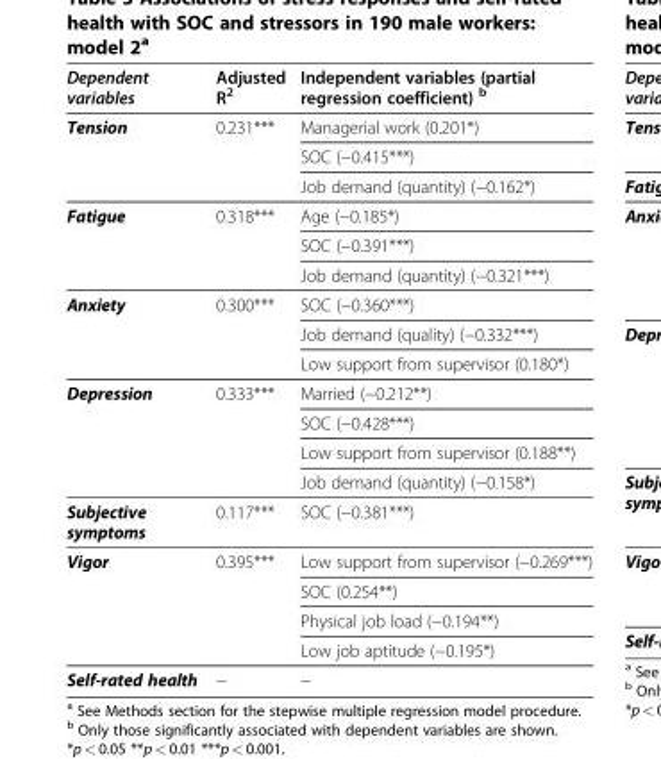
<table><thead><tr><td>Dependent variables</td><td>Adjusted R<sup>2</sup></td><td>Independent variables (partial regression coefficient) <sup>b</sup></td></tr></thead><tbody><tr><td rowspan="3">Tension</td><td rowspan="3">0.231***</td><td>Managerial work (0.201*)</td></tr><tr><td>SOC (−0.415***)</td></tr><tr><td>Job demand (quantity) (−0.162*)</td></tr><tr><td rowspan="3">Fatigue</td><td rowspan="3">0.318***</td><td>Age (−0.185*)</td></tr><tr><td>SOC (−0.391***)</td></tr><tr><td>Job demand (quantity) (−0.321***)</td></tr><tr><td rowspan="3">Anxiety</td><td rowspan="3">0.300***</td><td>SOC (−0.360***)</td></tr><tr><td>Job demand (quality) (−0.332***)</td></tr><tr><td>Low support from supervisor (0.180*)</td></tr><tr><td rowspan="4">Depression</td><td rowspan="4">0.333***</td><td>Married (−0.212**)</td></tr><tr><td>SOC (−0.428***)</td></tr><tr><td>Low support from supervisor (0.188**)</td></tr><tr><td>Job demand (quantity) (−0.158*)</td></tr><tr><td>Subjective symptoms</td><td>0.117***</td><td>SOC (−0.381***)</td></tr><tr><td rowspan="4">Vigor</td><td rowspan="4">0.395***</td><td>Low support from supervisor (−0.269***)</td></tr><tr><td>SOC (0.254**)</td></tr><tr><td>Physical job load (−0.194**)</td></tr><tr><td>Low job aptitude (−0.195*)</td></tr><tr><td>Self-rated health</td><td>−</td><td>−</td></tr></tbody></table>